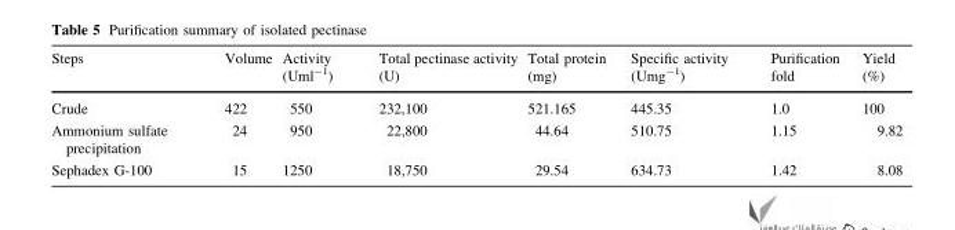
<table><thead><tr><td>Steps</td><td>Volume</td><td>Activity (Uml<sup>-1</sup>)</td><td>Total pectinase activity (U)</td><td>Total protein (mg)</td><td>Specific activity (Umg<sup>-1</sup>)</td><td>Purification fold</td><td>Yield (%)</td></tr></thead><tbody><tr><td>Crude</td><td>422</td><td>550</td><td>232,100</td><td>521.165</td><td>445.35</td><td>1.0</td><td>100</td></tr><tr><td>Ammonium sulfate precipitation</td><td>24</td><td>950</td><td>22,800</td><td>44.64</td><td>510.75</td><td>1.15</td><td>9.82</td></tr><tr><td>Sephadex G-100</td><td>15</td><td>1250</td><td>18,750</td><td>29.54</td><td>634.73</td><td>1.42</td><td>8.08</td></tr></tbody></table>